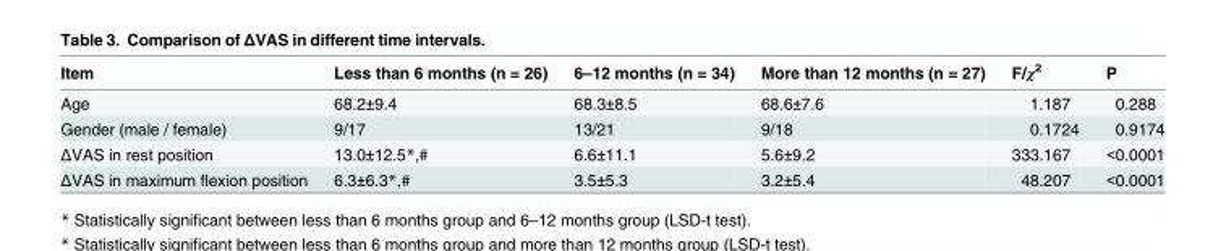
<table><thead><tr><td>Item</td><td>Less than 6 months (n = 26)</td><td>6–12 months (n = 34)</td><td>More than 12 months (n = 27)</td><td>F/χ<sup>2</sup></td><td>P</td></tr></thead><tbody><tr><td>Age</td><td>68.2±9.4</td><td>68.3±8.5</td><td>68.6±7.6</td><td>1.187</td><td>0.288</td></tr><tr><td>Gender (male / female)</td><td>9/17</td><td>13/21</td><td>9/18</td><td>0.1724</td><td>0.9174</td></tr><tr><td>ΔVAS in rest position</td><td>13.0±12.5*,#</td><td>6.6±11.1</td><td>5.6±9.2</td><td>333.167</td><td>&lt;0.0001</td></tr><tr><td>ΔVAS in maximum flexion position</td><td>6.3±6.3*,#</td><td>3.5±5.3</td><td>3.2±5.4</td><td>48.207</td><td>&lt;0.0001</td></tr></tbody></table>